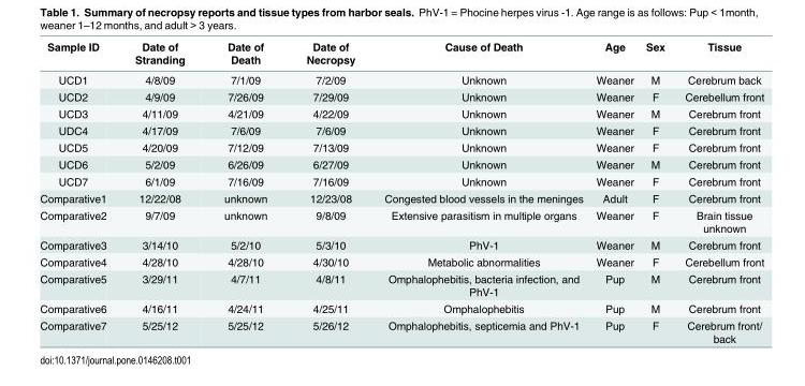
<table><thead><tr><td>Sample ID</td><td>Date of Stranding</td><td>Date of Death</td><td>Date of Necropsy</td><td>Cause of Death</td><td>Age</td><td>Sex</td><td>Tissue</td></tr></thead><tbody><tr><td>UCD1</td><td>4/8/09</td><td>7/1/09</td><td>7/2/09</td><td>Unknown</td><td>Weaner</td><td>M</td><td>Cerebrum back</td></tr><tr><td>UCD2</td><td>4/9/09</td><td>7/26/09</td><td>7/29/09</td><td>Unknown</td><td>Weaner</td><td>F</td><td>Cerebellum front</td></tr><tr><td>UCD3</td><td>4/11/09</td><td>4/21/09</td><td>4/22/09</td><td>Unknown</td><td>Weaner</td><td>M</td><td>Cerebrum front</td></tr><tr><td>UDC4</td><td>4/17/09</td><td>7/6/09</td><td>7/6/09</td><td>Unknown</td><td>Weaner</td><td>F</td><td>Cerebrum front</td></tr><tr><td>UCD5</td><td>4/20/09</td><td>7/12/09</td><td>7/13/09</td><td>Unknown</td><td>Weaner</td><td>F</td><td>Cerebrum front</td></tr><tr><td>UCD6</td><td>5/2/09</td><td>6/26/09</td><td>6/27/09</td><td>Unknown</td><td>Weaner</td><td>M</td><td>Cerebrum front</td></tr><tr><td>UCD7</td><td>6/1/09</td><td>7/16/09</td><td>7/16/09</td><td>Unknown</td><td>Weaner</td><td>F</td><td>Cerebrum front</td></tr><tr><td>Comparative1</td><td>12/22/08</td><td>unknown</td><td>12/23/08</td><td>Congested blood vessels in the meninges</td><td>Adult</td><td>F</td><td>Cerebrum front</td></tr><tr><td>Comparative2</td><td>9/7/09</td><td>unknown</td><td>9/8/09</td><td>Extensive parasitism in multiple organs</td><td>Weaner</td><td>F</td><td>Brain tissue unknown</td></tr><tr><td>Comparative3</td><td>3/14/10</td><td>5/2/10</td><td>5/3/10</td><td>PhV-1</td><td>Weaner</td><td>M</td><td>Cerebrum front</td></tr><tr><td>Comparative4</td><td>4/28/10</td><td>4/28/10</td><td>4/30/10</td><td>Metabolic abnormalities</td><td>Weaner</td><td>F</td><td>Cerebellum front</td></tr><tr><td>Comparative5</td><td>3/29/11</td><td>4/7/11</td><td>4/8/11</td><td>Omphalophebitis, bacteria infection, and PhV-1</td><td>Pup</td><td>M</td><td>Cerebrum front</td></tr><tr><td>Comparative6</td><td>4/16/11</td><td>4/24/11</td><td>4/25/11</td><td>Omphalophebitis</td><td>Pup</td><td>M</td><td>Cerebrum front</td></tr><tr><td>Comparative7</td><td>5/25/12</td><td>5/25/12</td><td>5/26/12</td><td>Omphalophebitis, septicemia and PhV-1</td><td>Pup</td><td>F</td><td>Cerebrum front/ back</td></tr></tbody></table>